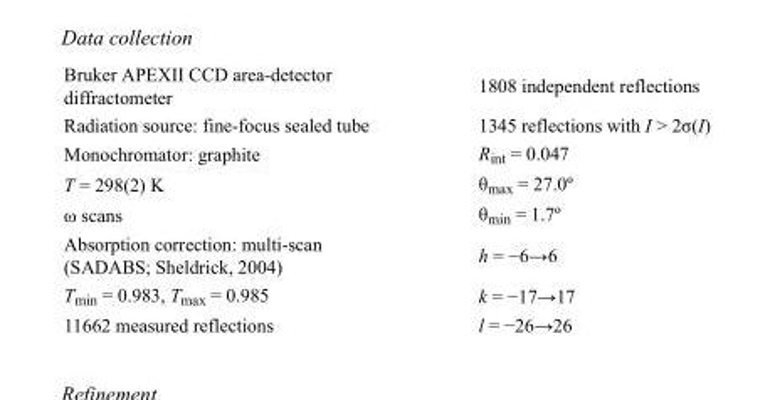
<table><tbody><tr><td>Bruker APEXII CCD area-detector diffractometer</td><td>1808 independent reflections</td></tr><tr><td>Radiation source: fine-focus sealed tube</td><td>1345 reflections with I &gt; 2σ(I)</td></tr><tr><td>Monochromator: graphite</td><td>R<sub>int</sub> = 0.047</td></tr><tr><td>T = 298(2) K</td><td>θ<sub>max</sub> = 27.0º</td></tr><tr><td>ω scans</td><td>θ<sub>min</sub> = 1.7º</td></tr><tr><td>Absorption correction: multi-scan (SADABS; Sheldrick, 2004)</td><td>h = −6→6</td></tr><tr><td>T<sub>min</sub> = 0.983, T<sub>max</sub> = 0.985</td><td>k = −17→17</td></tr><tr><td>11662 measured reflections</td><td>l = −26→26</td></tr></tbody></table>